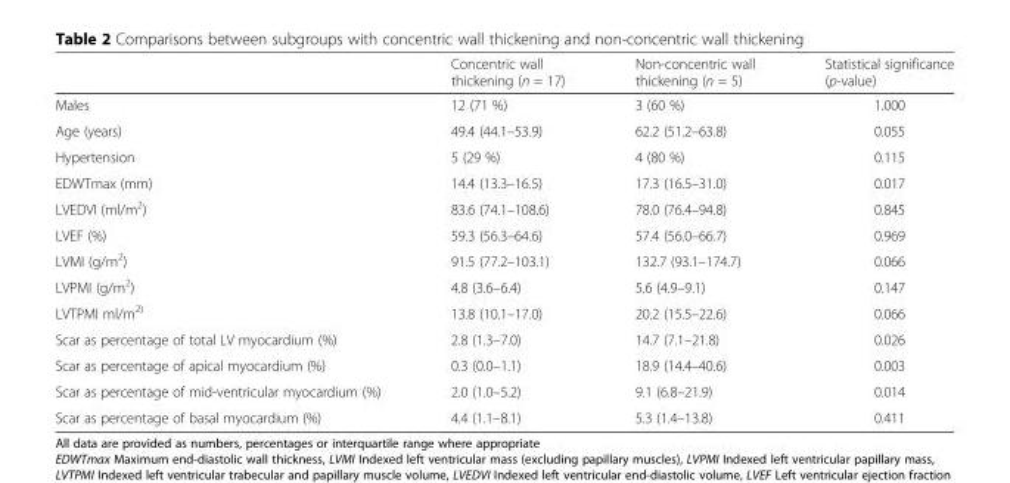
<table><thead><tr><td></td><td>Concentric wall thickening (n = 17)</td><td>Non-concentric wall thickening (n = 5)</td><td>Statistical significance (p-value)</td></tr></thead><tbody><tr><td>Males</td><td>12 (71 %)</td><td>3 (60 %)</td><td>1.000</td></tr><tr><td>Age (years)</td><td>49.4 (44.1–53.9)</td><td>62.2 (51.2–63.8)</td><td>0.055</td></tr><tr><td>Hypertension</td><td>5 (29 %)</td><td>4 (80 %)</td><td>0.115</td></tr><tr><td>EDWTmax (mm)</td><td>14.4 (13.3–16.5)</td><td>17.3 (16.5–31.0)</td><td>0.017</td></tr><tr><td>LVEDVI (ml/m<sup>2</sup>)</td><td>83.6 (74.1–108.6)</td><td>78.0 (76.4–94.8)</td><td>0.845</td></tr><tr><td>LVEF (%)</td><td>59.3 (56.3–64.6)</td><td>57.4 (56.0–66.7)</td><td>0.969</td></tr><tr><td>LVMI (g/m<sup>2</sup>)</td><td>91.5 (77.2–103.1)</td><td>132.7 (93.1–174.7)</td><td>0.066</td></tr><tr><td>LVPMI (g/m<sup>2</sup>)</td><td>4.8 (3.6–6.4)</td><td>5.6 (4.9–9.1)</td><td>0.147</td></tr><tr><td>LVTPMI ml/m<sup>2)</sup></td><td>13.8 (10.1–17.0)</td><td>20.2 (15.5–22.6)</td><td>0.066</td></tr><tr><td>Scar as percentage of total LV myocardium (%)</td><td>2.8 (1.3–7.0)</td><td>14.7 (7.1–21.8)</td><td>0.026</td></tr><tr><td>Scar as percentage of apical myocardium (%)</td><td>0.3 (0.0–1.1)</td><td>18.9 (14.4–40.6)</td><td>0.003</td></tr><tr><td>Scar as percentage of mid-ventricular myocardium (%)</td><td>2.0 (1.0–5.2)</td><td>9.1 (6.8–21.9)</td><td>0.014</td></tr><tr><td>Scar as percentage of basal myocardium (%)</td><td>4.4 (1.1–8.1)</td><td>5.3 (1.4–13.8)</td><td>0.411</td></tr></tbody></table>